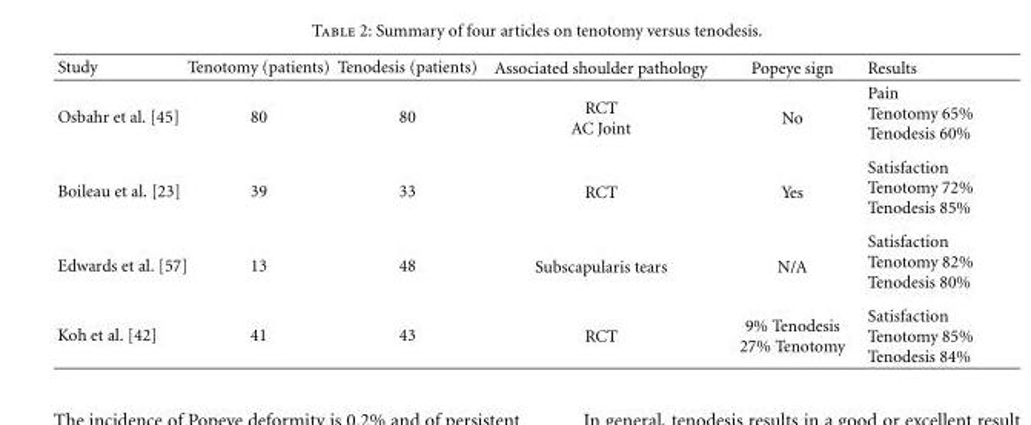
<table><thead><tr><td>Study</td><td>Tenotomy (patients)</td><td>Tenodesis (patients)</td><td>Associated shoulder pathology</td><td>Popeye sign</td><td>Results</td></tr></thead><tbody><tr><td>Osbahr et al. [45]</td><td>80</td><td>80</td><td>RCT AC Joint</td><td>No</td><td>Pain Tenotomy 65% Tenodesis 60%</td></tr><tr><td>Boileau et al. [23]</td><td>39</td><td>33</td><td>RCT</td><td>Yes</td><td>Satisfaction Tenotomy 72% Tenodesis 85%</td></tr><tr><td>Edwards et al. [57]</td><td>13</td><td>48</td><td>Subscapularis tears</td><td>N/A</td><td>Satisfaction Tenotomy 82% Tenodesis 80%</td></tr><tr><td>Koh et al. [42]</td><td>41</td><td>43</td><td>RCT</td><td>9% Tenodesis 27% Tenotomy</td><td>Satisfaction Tenotomy 85% Tenodesis 84%</td></tr></tbody></table>